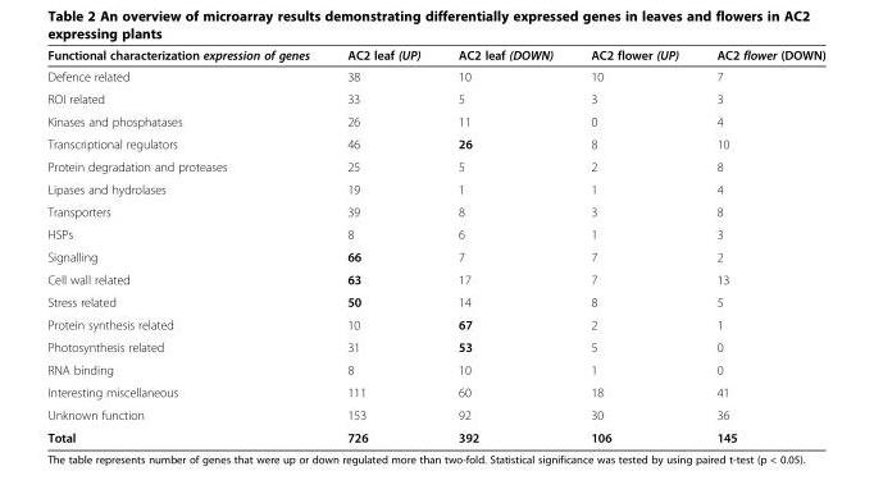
<table><thead><tr><td>Functional characterization expression of genes</td><td>AC2 leaf (UP)</td><td>AC2 leaf (DOWN)</td><td>AC2 flower (UP)</td><td>AC2 flower (DOWN)</td></tr></thead><tbody><tr><td>Defence related</td><td>38</td><td>10</td><td>10</td><td>7</td></tr><tr><td>ROI related</td><td>33</td><td>5</td><td>3</td><td>3</td></tr><tr><td>Kinases and phosphatases</td><td>26</td><td>11</td><td>0</td><td>4</td></tr><tr><td>Transcriptional regulators</td><td>46</td><td>26</td><td>8</td><td>10</td></tr><tr><td>Protein degradation and proteases</td><td>25</td><td>5</td><td>2</td><td>8</td></tr><tr><td>Lipases and hydrolases</td><td>19</td><td>1</td><td>1</td><td>4</td></tr><tr><td>Transporters</td><td>39</td><td>8</td><td>3</td><td>8</td></tr><tr><td>HSPs</td><td>8</td><td>6</td><td>1</td><td>3</td></tr><tr><td>Signalling</td><td>66</td><td>7</td><td>7</td><td>2</td></tr><tr><td>Cell wall related</td><td>63</td><td>17</td><td>7</td><td>13</td></tr><tr><td>Stress related</td><td>50</td><td>14</td><td>8</td><td>5</td></tr><tr><td>Protein synthesis related</td><td>10</td><td>67</td><td>2</td><td>1</td></tr><tr><td>Photosynthesis related</td><td>31</td><td>53</td><td>5</td><td>0</td></tr><tr><td>RNA binding</td><td>8</td><td>10</td><td>1</td><td>0</td></tr><tr><td>Interesting miscellaneous</td><td>111</td><td>60</td><td>18</td><td>41</td></tr><tr><td>Unknown function</td><td>153</td><td>92</td><td>30</td><td>36</td></tr><tr><td>Total</td><td>726</td><td>392</td><td>106</td><td>145</td></tr></tbody></table>